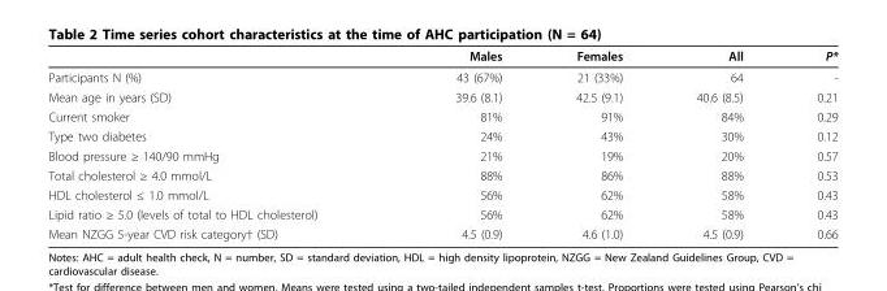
<table><thead><tr><td></td><td>Males</td><td>Females</td><td>All</td><td>P*</td></tr></thead><tbody><tr><td>Participants N (%)</td><td>43 (67%)</td><td>21 (33%)</td><td>64</td><td>-</td></tr><tr><td>Mean age in years (SD)</td><td>39.6 (8.1)</td><td>42.5 (9.1)</td><td>40.6 (8.5)</td><td>0.21</td></tr><tr><td>Current smoker</td><td>81%</td><td>91%</td><td>84%</td><td>0.29</td></tr><tr><td>Type two diabetes</td><td>24%</td><td>43%</td><td>30%</td><td>0.12</td></tr><tr><td>Blood pressure ≥ 140/90 mmHg</td><td>21%</td><td>19%</td><td>20%</td><td>0.57</td></tr><tr><td>Total cholesterol ≥ 4.0 mmol/L</td><td>88%</td><td>86%</td><td>88%</td><td>0.53</td></tr><tr><td>HDL cholesterol ≤ 1.0 mmol/L</td><td>56%</td><td>62%</td><td>58%</td><td>0.43</td></tr><tr><td>Lipid ratio ≥ 5.0 (levels of total to HDL cholesterol)</td><td>56%</td><td>62%</td><td>58%</td><td>0.43</td></tr><tr><td>Mean NZGG 5-year CVD risk category† (SD)</td><td>4.5 (0.9)</td><td>4.6 (1.0)</td><td>4.5 (0.9)</td><td>0.66</td></tr></tbody></table>